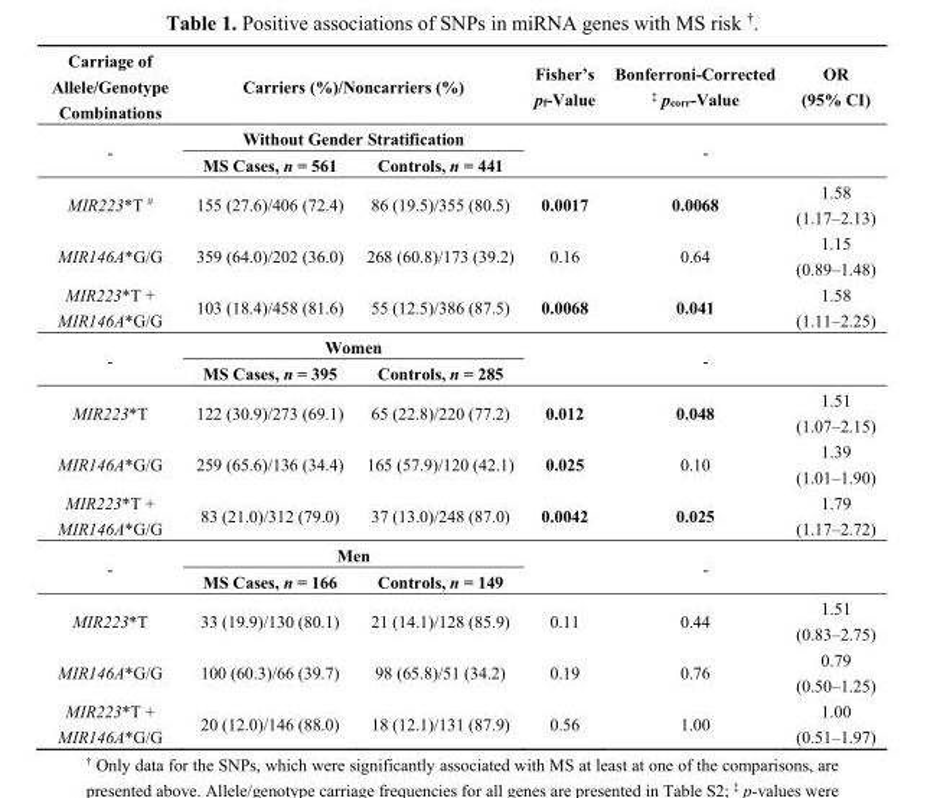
<table><thead><tr><td rowspan="3">Carriage of Allele/Genotype Combinations -</td><td rowspan="2" colspan="2">Carriers (%)/Noncarriers (%) Without Gender Stratification</td><td>Fisher’s p<sub>f</sub>-Value</td><td>Bonferroni-Corrected <sup>‡</sup> p<sub>corr</sub>-Value</td><td>OR (95% CI)</td></tr><tr><td rowspan="2" colspan="3">-</td></tr><tr><td>MS Cases, n = 561</td><td>Controls, n = 441</td></tr></thead><tbody><tr><td>MIR223*T <sup>#</sup></td><td>155 (27.6)/406 (72.4)</td><td>86 (19.5)/355 (80.5)</td><td>0.0017</td><td>0.0068</td><td>1.58 (1.17–2.13)</td></tr><tr><td>MIR146A*G/G</td><td>359 (64.0)/202 (36.0)</td><td>268 (60.8)/173 (39.2)</td><td>0.16</td><td>0.64</td><td>1.15 (0.89–1.48)</td></tr><tr><td>MIR223*T + MIR146A*G/G</td><td>103 (18.4)/458 (81.6)</td><td>55 (12.5)/386 (87.5)</td><td>0.0068</td><td>0.041</td><td>1.58 (1.11–2.25)</td></tr><tr><td rowspan="2">-</td><td colspan="2">Women</td><td rowspan="2" colspan="3">-</td></tr><tr><td>MS Cases, n = 395</td><td>Controls, n = 285</td></tr><tr><td>MIR223*T</td><td>122 (30.9)/273 (69.1)</td><td>65 (22.8)/220 (77.2)</td><td>0.012</td><td>0.048</td><td>1.51 (1.07–2.15)</td></tr><tr><td>MIR146A*G/G</td><td>259 (65.6)/136 (34.4)</td><td>165 (57.9)/120 (42.1)</td><td>0.025</td><td>0.10</td><td>1.39 (1.01–1.90)</td></tr><tr><td>MIR223*T + MIR146A*G/G</td><td>83 (21.0)/312 (79.0)</td><td>37 (13.0)/248 (87.0)</td><td>0.0042</td><td>0.025</td><td>1.79 (1.17–2.72)</td></tr><tr><td rowspan="2">-</td><td colspan="2">Men</td><td rowspan="2" colspan="3">-</td></tr><tr><td>MS Cases, n = 166</td><td>Controls, n = 149</td></tr><tr><td>MIR223*T</td><td>33 (19.9)/130 (80.1)</td><td>21 (14.1)/128 (85.9)</td><td>0.11</td><td>0.44</td><td>1.51 (0.83–2.75)</td></tr><tr><td>MIR146A*G/G</td><td>100 (60.3)/66 (39.7)</td><td>98 (65.8)/51 (34.2)</td><td>0.19</td><td>0.76</td><td>0.79 (0.50–1.25)</td></tr><tr><td>MIR223*T + MIR146A*G/G</td><td>20 (12.0)/146 (88.0)</td><td>18 (12.1)/131 (87.9)</td><td>0.56</td><td>1.00</td><td>1.00 (0.51–1.97)</td></tr></tbody></table>